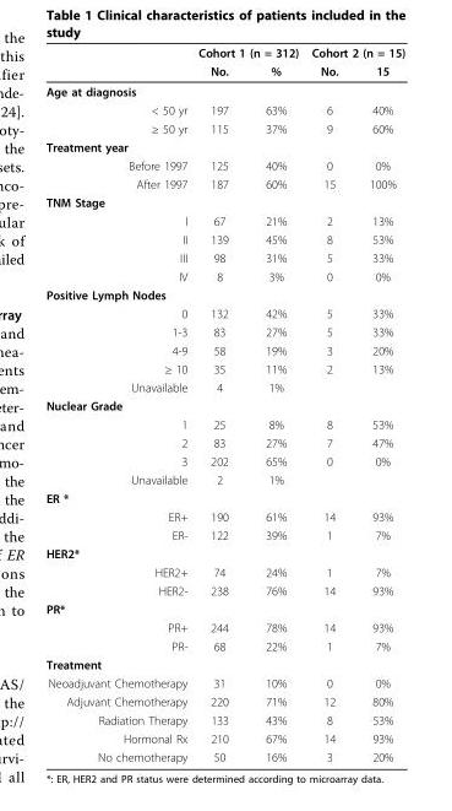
<table><thead><tr><td rowspan="2"></td><td colspan="2">Cohort 1 (n = 312)</td><td colspan="2">Cohort 2 (n = 15)</td></tr><tr><td>No.</td><td>%</td><td>No.</td><td>15</td></tr></thead><tbody><tr><td colspan="5">Age at diagnosis</td></tr><tr><td>&lt; 50 yr</td><td>197</td><td>63%</td><td>6</td><td>40%</td></tr><tr><td>≥ 50 yr</td><td>115</td><td>37%</td><td>9</td><td>60%</td></tr><tr><td colspan="5">Treatment year</td></tr><tr><td>Before 1997</td><td>125</td><td>40%</td><td>0</td><td>0%</td></tr><tr><td>After 1997</td><td>187</td><td>60%</td><td>15</td><td>100%</td></tr><tr><td colspan="5">TNM Stage</td></tr><tr><td>I</td><td>67</td><td>21%</td><td>2</td><td>13%</td></tr><tr><td>II</td><td>139</td><td>45%</td><td>8</td><td>53%</td></tr><tr><td>III</td><td>98</td><td>31%</td><td>5</td><td>33%</td></tr><tr><td>IV</td><td>8</td><td>3%</td><td>0</td><td>0%</td></tr><tr><td colspan="5">Positive Lymph Nodes</td></tr><tr><td>0</td><td>132</td><td>42%</td><td>5</td><td>33%</td></tr><tr><td>1-3</td><td>83</td><td>27%</td><td>5</td><td>33%</td></tr><tr><td>4-9</td><td>58</td><td>19%</td><td>3</td><td>20%</td></tr><tr><td>≥ 10</td><td>35</td><td>11%</td><td>2</td><td>13%</td></tr><tr><td>Unavailable</td><td>4</td><td>1%</td><td></td><td></td></tr><tr><td colspan="5">Nuclear Grade</td></tr><tr><td>1</td><td>25</td><td>8%</td><td>8</td><td>53%</td></tr><tr><td>2</td><td>83</td><td>27%</td><td>7</td><td>47%</td></tr><tr><td>3</td><td>202</td><td>65%</td><td>0</td><td>0%</td></tr><tr><td>Unavailable</td><td>2</td><td>1%</td><td></td><td></td></tr><tr><td colspan="5">ER *</td></tr><tr><td>ER+</td><td>190</td><td>61%</td><td>14</td><td>93%</td></tr><tr><td>ER-</td><td>122</td><td>39%</td><td>1</td><td>7%</td></tr><tr><td colspan="5">HER2*</td></tr><tr><td>HER2+</td><td>74</td><td>24%</td><td>1</td><td>7%</td></tr><tr><td>HER2-</td><td>238</td><td>76%</td><td>14</td><td>93%</td></tr><tr><td colspan="5">PR*</td></tr><tr><td>PR+</td><td>244</td><td>78%</td><td>14</td><td>93%</td></tr><tr><td>PR-</td><td>68</td><td>22%</td><td>1</td><td>7%</td></tr><tr><td colspan="5">Treatment</td></tr><tr><td>Neoadjuvant Chemotherapy</td><td>31</td><td>10%</td><td>0</td><td>0%</td></tr><tr><td>Adjuvant Chemotherapy</td><td>220</td><td>71%</td><td>12</td><td>80%</td></tr><tr><td>Radiation Therapy</td><td>133</td><td>43%</td><td>8</td><td>53%</td></tr><tr><td>Hormonal Rx</td><td>210</td><td>67%</td><td>14</td><td>93%</td></tr><tr><td>No chemotherapy</td><td>50</td><td>16%</td><td>3</td><td>20%</td></tr></tbody></table>